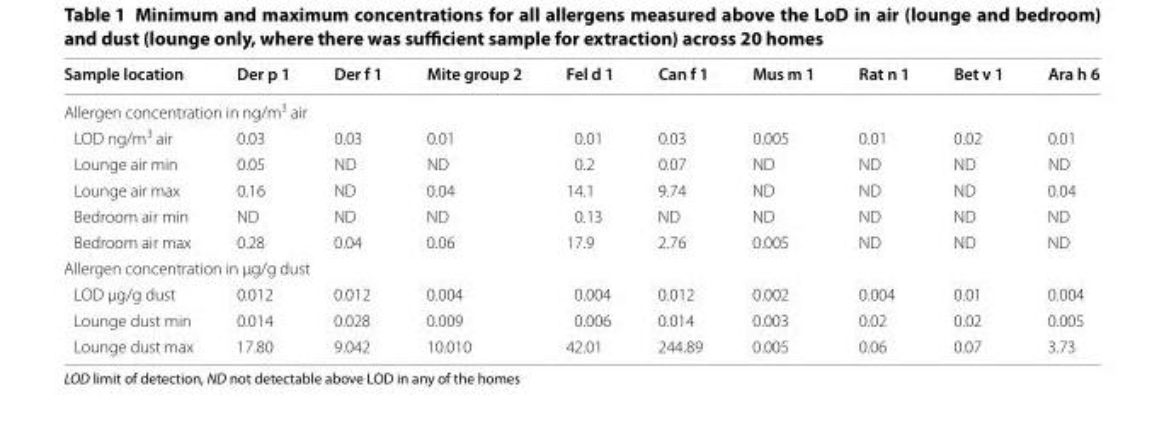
<table><thead><tr><td>Sample location</td><td>Der p 1</td><td>Der f 1</td><td>Mite group 2</td><td>Fel d 1</td><td>Can f 1</td><td>Mus m 1</td><td>Rat n 1</td><td>Bet v 1</td><td>Ara h 6</td></tr></thead><tbody><tr><td colspan="10">Allergen concentration in ng/m<sup>3</sup> air</td></tr><tr><td>LOD ng/m<sup>3</sup> air</td><td>0.03</td><td>0.03</td><td>0.01</td><td>0.01</td><td>0.03</td><td>0.005</td><td>0.01</td><td>0.02</td><td>0.01</td></tr><tr><td>Lounge air min</td><td>0.05</td><td>ND</td><td>ND</td><td>0.2</td><td>0.07</td><td>ND</td><td>ND</td><td>ND</td><td>ND</td></tr><tr><td>Lounge air max</td><td>0.16</td><td>ND</td><td>0.04</td><td>14.1</td><td>9.74</td><td>ND</td><td>ND</td><td>ND</td><td>0.04</td></tr><tr><td>Bedroom air min</td><td>ND</td><td>ND</td><td>ND</td><td>0.13</td><td>ND</td><td>ND</td><td>ND</td><td>ND</td><td>ND</td></tr><tr><td>Bedroom air max</td><td>0.28</td><td>0.04</td><td>0.06</td><td>17.9</td><td>2.76</td><td>0.005</td><td>ND</td><td>ND</td><td>ND</td></tr><tr><td colspan="10">Allergen concentration in µg/g dust</td></tr><tr><td>LOD µg/g dust</td><td>0.012</td><td>0.012</td><td>0.004</td><td>0.004</td><td>0.012</td><td>0.002</td><td>0.004</td><td>0.01</td><td>0.004</td></tr><tr><td>Lounge dust min</td><td>0.014</td><td>0.028</td><td>0.009</td><td>0.006</td><td>0.014</td><td>0.003</td><td>0.02</td><td>0.02</td><td>0.005</td></tr><tr><td>Lounge dust max</td><td>17.80</td><td>9.042</td><td>10.010</td><td>42.01</td><td>244.89</td><td>0.005</td><td>0.06</td><td>0.07</td><td>3.73</td></tr></tbody></table>